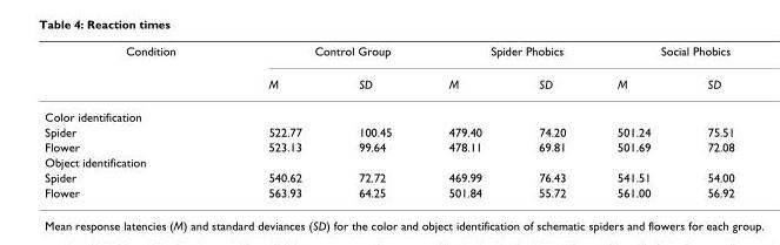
<table><thead><tr><td rowspan="2">Condition</td><td colspan="2">Control Group</td><td colspan="2">Spider Phobics</td><td colspan="2">Social Phobics</td></tr><tr><td>M</td><td>SD</td><td>M</td><td>SD</td><td>M</td><td>SD</td></tr></thead><tbody><tr><td colspan="7">Color identification</td></tr><tr><td>Spider</td><td>522.77</td><td>100.45</td><td>479.40</td><td>74.20</td><td>501.24</td><td>75.51</td></tr><tr><td>Flower</td><td>523.13</td><td>99.64</td><td>478.11</td><td>69.81</td><td>501.69</td><td>72.08</td></tr><tr><td colspan="7">Object identification</td></tr><tr><td>Spider</td><td>540.62</td><td>72.72</td><td>469.99</td><td>76.43</td><td>541.51</td><td>54.00</td></tr><tr><td>Flower</td><td>563.93</td><td>64.25</td><td>501.84</td><td>55.72</td><td>561.00</td><td>56.92</td></tr></tbody></table>